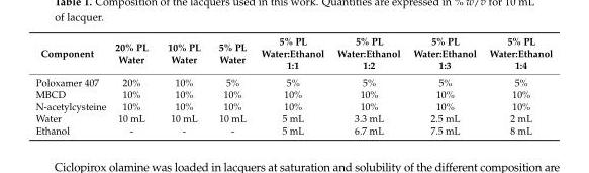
<table><thead><tr><td>Component</td><td>20% PL Water</td><td>10% PL Water</td><td>5% PL Water</td><td>5% PL Water:Ethanol 1:1</td><td>5% PL Water:Ethanol 1:2</td><td>5% PL Water:Ethanol 1:3</td><td>5% PL Water:Ethanol 1:4</td></tr></thead><tbody><tr><td>Poloxamer 407</td><td>20%</td><td>10%</td><td>5%</td><td>5%</td><td>5%</td><td>5%</td><td>5%</td></tr><tr><td>MBCD</td><td>10%</td><td>10%</td><td>10%</td><td>10%</td><td>10%</td><td>10%</td><td>10%</td></tr><tr><td>N-acetylcysteine</td><td>10%</td><td>10%</td><td>10%</td><td>10%</td><td>10%</td><td>10%</td><td>10%</td></tr><tr><td>Water</td><td>10 mL</td><td>10 mL</td><td>10 mL</td><td>5 mL</td><td>3.3 mL</td><td>2.5 mL</td><td>2 mL</td></tr><tr><td>Ethanol</td><td>-</td><td>-</td><td>-</td><td>5 mL</td><td>6.7 mL</td><td>7.5 mL</td><td>8 mL</td></tr></tbody></table>